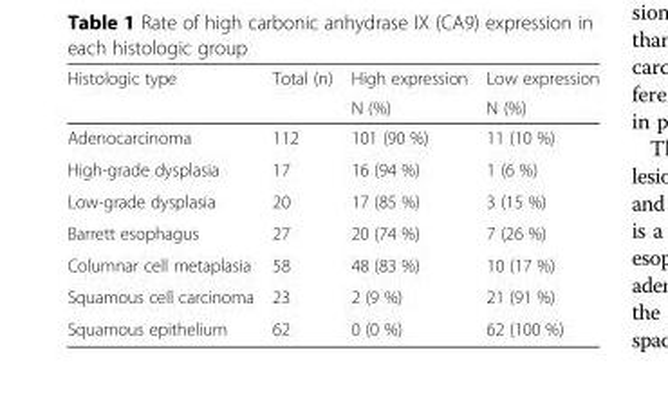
<table><thead><tr><td rowspan="2">Histologic type</td><td rowspan="2">Total (n)</td><td rowspan="2">High expression N (%)</td><td rowspan="2">Low expression N (%)</td></tr><tr></tr></thead><tbody><tr><td>Adenocarcinoma</td><td>112</td><td>101 (90 %)</td><td>11 (10 %)</td></tr><tr><td>High-grade dysplasia</td><td>17</td><td>16 (94 %)</td><td>1 (6 %)</td></tr><tr><td>Low-grade dysplasia</td><td>20</td><td>17 (85 %)</td><td>3 (15 %)</td></tr><tr><td>Barrett esophagus</td><td>27</td><td>20 (74 %)</td><td>7 (26 %)</td></tr><tr><td>Columnar cell metaplasia</td><td>58</td><td>48 (83 %)</td><td>10 (17 %)</td></tr><tr><td>Squamous cell carcinoma</td><td>23</td><td>2 (9 %)</td><td>21 (91 %)</td></tr><tr><td>Squamous epithelium</td><td>62</td><td>0 (0 %)</td><td>62 (100 %)</td></tr></tbody></table>